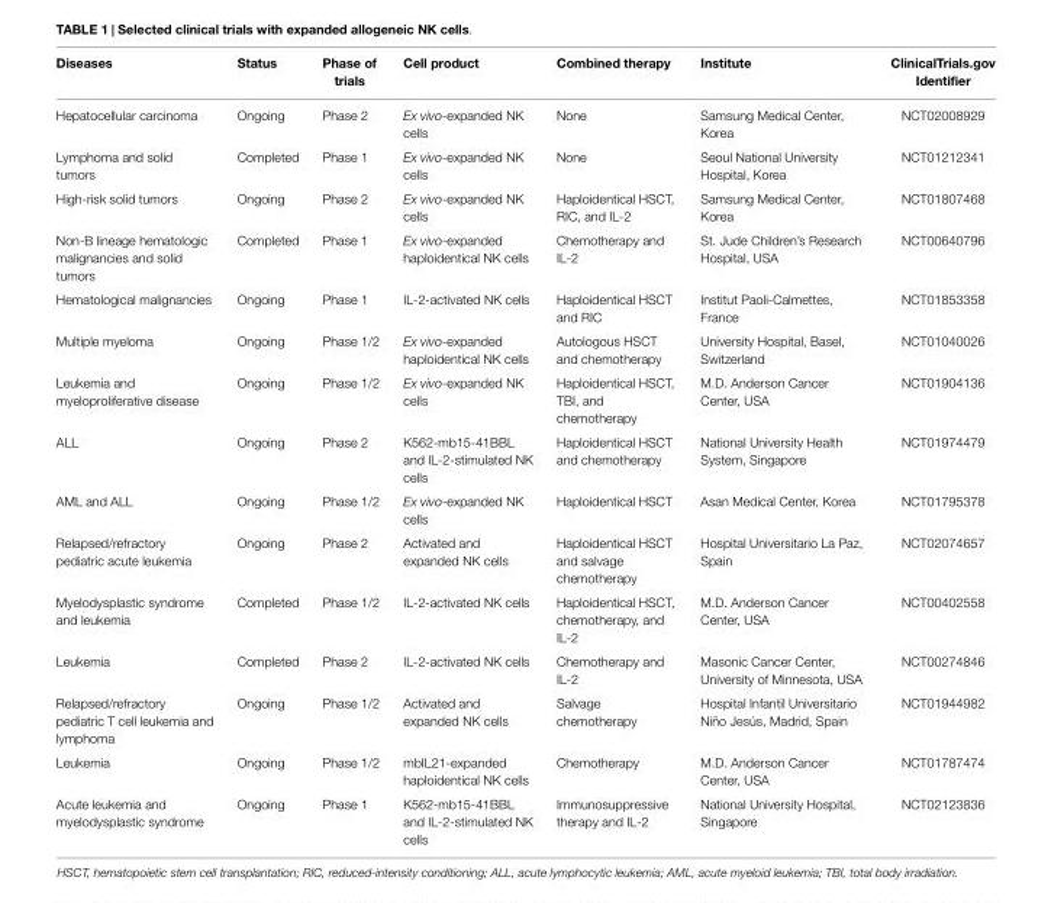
<table><thead><tr><td>Diseases</td><td>Status</td><td>Phase of trials</td><td>Cell product</td><td>Combined therapy</td><td>Institute</td><td>ClinicalTrials.gov Identifier</td></tr></thead><tbody><tr><td>Hepatocellular carcinoma</td><td>Ongoing</td><td>Phase 2</td><td>Ex vivo-expanded NK cells</td><td>None</td><td>Samsung Medical Center, Korea</td><td>NCT02008929</td></tr><tr><td>Lymphoma and solid tumors</td><td>Completed</td><td>Phase 1</td><td>Ex vivo-expanded NK cells</td><td>None</td><td>Seoul National University Hospital, Korea</td><td>NCT01212341</td></tr><tr><td>High-risk solid tumors</td><td>Ongoing</td><td>Phase 2</td><td>Ex vivo-expanded NK cells</td><td>Haploidentical HSCT, RIC, and IL-2</td><td>Samsung Medical Center, Korea</td><td>NCT01807468</td></tr><tr><td>Non-B lineage hematologic malignancies and solid tumors</td><td>Completed</td><td>Phase 1</td><td>Ex vivo-expanded haploidentical NK cells</td><td>Chemotherapy and IL-2</td><td>St. Jude Children’s Research Hospital, USA</td><td>NCT00640796</td></tr><tr><td>Hematological malignancies</td><td>Ongoing</td><td>Phase 1</td><td>IL-2-activated NK cells</td><td>Haploidentical HSCT and RIC</td><td>Institut Paoli-Calmettes, France</td><td>NCT01853358</td></tr><tr><td>Multiple myeloma</td><td>Ongoing</td><td>Phase 1/2</td><td>Ex vivo-expanded haploidentical NK cells</td><td>Autologous HSCT and chemotherapy</td><td>University Hospital, Basel, Switzerland</td><td>NCT01040026</td></tr><tr><td>Leukemia and myeloproliferative disease</td><td>Ongoing</td><td>Phase 1/2</td><td>Ex vivo-expanded NK cells</td><td>Haploidentical HSCT, TBI, and chemotherapy</td><td>M.D. Anderson Cancer Center, USA</td><td>NCT01904136</td></tr><tr><td>ALL</td><td>Ongoing</td><td>Phase 2</td><td>K562-mb15-41BBL and IL-2-stimulated NK cells</td><td>Haploidentical HSCT and chemotherapy</td><td>National University Health System, Singapore</td><td>NCT01974479</td></tr><tr><td>AML and ALL</td><td>Ongoing</td><td>Phase 1/2</td><td>Ex vivo-expanded NK cells</td><td>Haploidentical HSCT</td><td>Asan Medical Center, Korea</td><td>NCT01795378</td></tr><tr><td>Relapsed/refractory pediatric acute leukemia</td><td>Ongoing</td><td>Phase 2</td><td>Activated and expanded NK cells</td><td>Haploidentical HSCT and salvage chemotherapy</td><td>Hospital Universitario La Paz, Spain</td><td>NCT02074657</td></tr><tr><td>Myelodysplastic syndrome and leukemia</td><td>Completed</td><td>Phase 1/2</td><td>IL-2-activated NK cells</td><td>Haploidentical HSCT, chemotherapy, and IL-2</td><td>M.D. Anderson Cancer Center, USA</td><td>NCT00402558</td></tr><tr><td>Leukemia</td><td>Completed</td><td>Phase 2</td><td>IL-2-activated NK cells</td><td>Chemotherapy and IL-2</td><td>Masonic Cancer Center, University of Minnesota, USA</td><td>NCT00274846</td></tr><tr><td>Relapsed/refractory pediatric T cell leukemia and lymphoma</td><td>Ongoing</td><td>Phase 1/2</td><td>Activated and expanded NK cells</td><td>Salvage chemotherapy</td><td>Hospital Infantil Universitario Niño Jesús, Madrid, Spain</td><td>NCT01944982</td></tr><tr><td>Leukemia</td><td>Ongoing</td><td>Phase 1/2</td><td>mbIL21-expanded haploidentical NK cells</td><td>Chemotherapy</td><td>M.D. Anderson Cancer Center, USA</td><td>NCT01787474</td></tr><tr><td>Acute leukemia and myelodysplastic syndrome</td><td>Ongoing</td><td>Phase 1</td><td>K562-mb15-41BBL and IL-2-stimulated NK cells</td><td>Immunosuppressive therapy and IL-2</td><td>National University Hospital, Singapore</td><td>NCT02123836</td></tr></tbody></table>